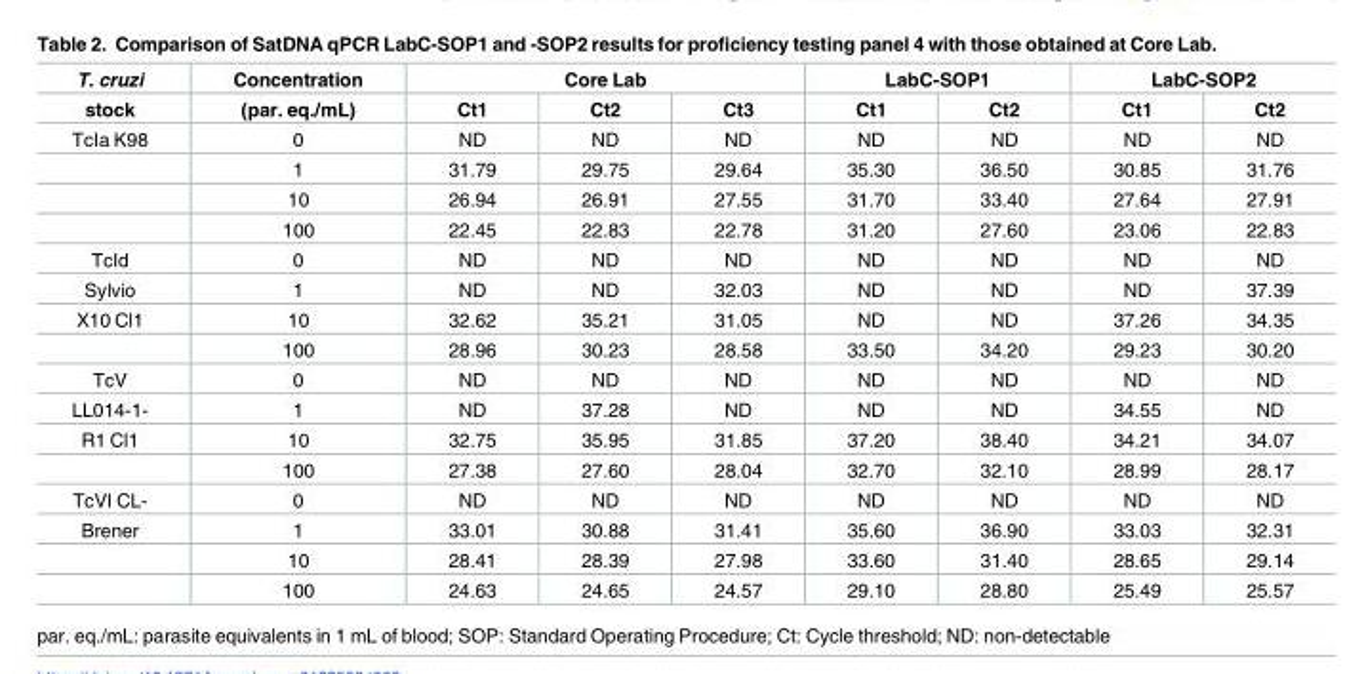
<table><thead><tr><td rowspan="2">T. cruzi stock</td><td rowspan="2">Concentration (par. eq./mL)</td><td colspan="3">Core Lab</td><td colspan="2">LabC-SOP1</td><td colspan="2">LabC-SOP2</td></tr><tr><td>Ct1</td><td>Ct2</td><td>Ct3</td><td>Ct1</td><td>Ct2</td><td>Ct1</td><td>Ct2</td></tr></thead><tbody><tr><td rowspan="4">TcIa K98</td><td>0</td><td>ND</td><td>ND</td><td>ND</td><td>ND</td><td>ND</td><td>ND</td><td>ND</td></tr><tr><td>1</td><td>31.79</td><td>29.75</td><td>29.64</td><td>35.30</td><td>36.50</td><td>30.85</td><td>31.76</td></tr><tr><td>10</td><td>26.94</td><td>26.91</td><td>27.55</td><td>31.70</td><td>33.40</td><td>27.64</td><td>27.91</td></tr><tr><td>100</td><td>22.45</td><td>22.83</td><td>22.78</td><td>31.20</td><td>27.60</td><td>23.06</td><td>22.83</td></tr><tr><td>TcId</td><td>0</td><td>ND</td><td>ND</td><td>ND</td><td>ND</td><td>ND</td><td>ND</td><td>ND</td></tr><tr><td>Sylvio</td><td>1</td><td>ND</td><td>ND</td><td>32.03</td><td>ND</td><td>ND</td><td>ND</td><td>37.39</td></tr><tr><td rowspan="2">X10 Cl1</td><td>10</td><td>32.62</td><td>35.21</td><td>31.05</td><td>ND</td><td>ND</td><td>37.26</td><td>34.35</td></tr><tr><td>100</td><td>28.96</td><td>30.23</td><td>28.58</td><td>33.50</td><td>34.20</td><td>29.23</td><td>30.20</td></tr><tr><td>TcV</td><td>0</td><td>ND</td><td>ND</td><td>ND</td><td>ND</td><td>ND</td><td>ND</td><td>ND</td></tr><tr><td>LL014-1-</td><td>1</td><td>ND</td><td>37.28</td><td>ND</td><td>ND</td><td>ND</td><td>34.55</td><td>ND</td></tr><tr><td rowspan="2">R1 Cl1</td><td>10</td><td>32.75</td><td>35.95</td><td>31.85</td><td>37.20</td><td>38.40</td><td>34.21</td><td>34.07</td></tr><tr><td>100</td><td>27.38</td><td>27.60</td><td>28.04</td><td>32.70</td><td>32.10</td><td>28.99</td><td>28.17</td></tr><tr><td>TcVI CL-</td><td>0</td><td>ND</td><td>ND</td><td>ND</td><td>ND</td><td>ND</td><td>ND</td><td>ND</td></tr><tr><td rowspan="3">Brener</td><td>1</td><td>33.01</td><td>30.88</td><td>31.41</td><td>35.60</td><td>36.90</td><td>33.03</td><td>32.31</td></tr><tr><td>10</td><td>28.41</td><td>28.39</td><td>27.98</td><td>33.60</td><td>31.40</td><td>28.65</td><td>29.14</td></tr><tr><td>100</td><td>24.63</td><td>24.65</td><td>24.57</td><td>29.10</td><td>28.80</td><td>25.49</td><td>25.57</td></tr></tbody></table>